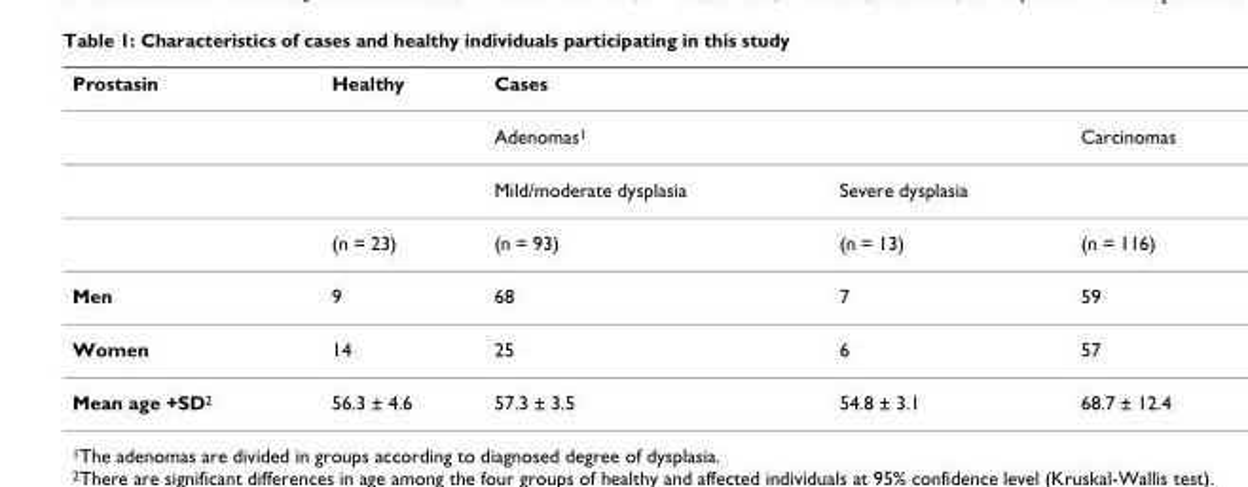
<table><thead><tr><td>Prostasin</td><td>Healthy</td><td>Cases</td><td></td><td></td></tr></thead><tbody><tr><td></td><td></td><td>Adenomas<sup>1</sup></td><td></td><td>Carcinomas</td></tr><tr><td></td><td></td><td>Mild/moderate dysplasia</td><td>Severe dysplasia</td><td></td></tr><tr><td></td><td>(n = 23)</td><td>(n = 93)</td><td>(n = 13)</td><td>(n = 116)</td></tr><tr><td>Men</td><td>9</td><td>68</td><td>7</td><td>59</td></tr><tr><td>Women</td><td>14</td><td>25</td><td>6</td><td>57</td></tr><tr><td>Mean age +SD<sup>2</sup></td><td>56.3 ± 4.6</td><td>57.3 ± 3.5</td><td>54.8 ± 3.1</td><td>68.7 ± 12.4</td></tr></tbody></table>